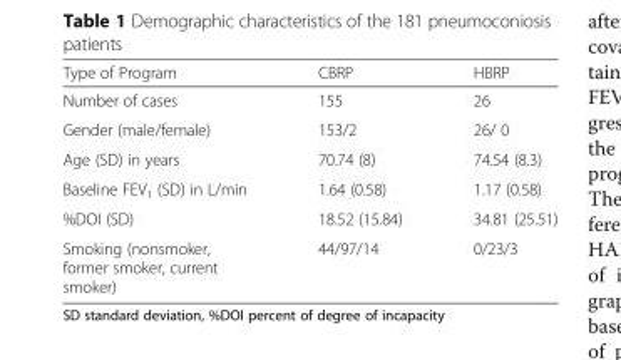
<table><thead><tr><td>Type of Program</td><td>CBRP</td><td>HBRP</td></tr></thead><tbody><tr><td>Number of cases</td><td>155</td><td>26</td></tr><tr><td>Gender (male/female)</td><td>153/2</td><td>26/ 0</td></tr><tr><td>Age (SD) in years</td><td>70.74 (8)</td><td>74.54 (8.3)</td></tr><tr><td>Baseline FEV<sub>1</sub> (SD) in L/min</td><td>1.64 (0.58)</td><td>1.17 (0.58)</td></tr><tr><td>%DOI (SD)</td><td>18.52 (15.84)</td><td>34.81 (25.51)</td></tr><tr><td>Smoking (nonsmoker, former smoker, current smoker)</td><td>44/97/14</td><td>0/23/3</td></tr></tbody></table>